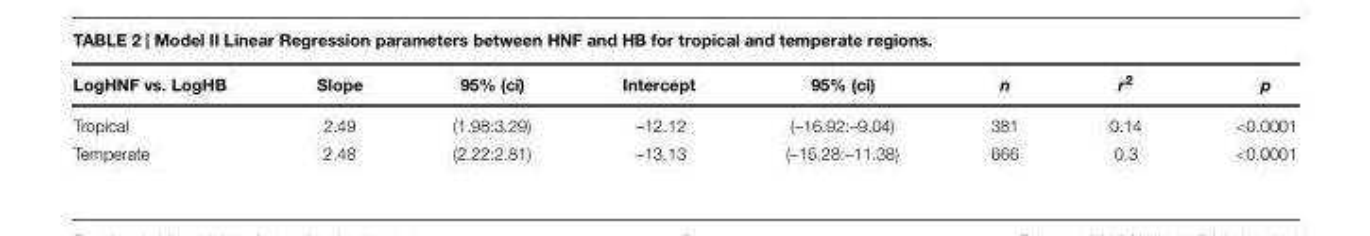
<table><thead><tr><td>LogHNF vs. LogHB</td><td>Slope</td><td>95% (ci)</td><td>Intercept</td><td>95% (ci)</td><td>n</td><td>r<sup>2</sup></td><td>p</td></tr></thead><tbody><tr><td>Tropical</td><td>2.49</td><td>(1.98:3.29)</td><td>–12.12</td><td>(–16.92:–9.04)</td><td>381</td><td>0.14</td><td>&lt;0.0001</td></tr><tr><td>Temperate</td><td>2.48</td><td>(2.22:2.81)</td><td>–13.13</td><td>(–15.28:–11.38)</td><td>666</td><td>0.3</td><td>&lt;0.0001</td></tr></tbody></table>